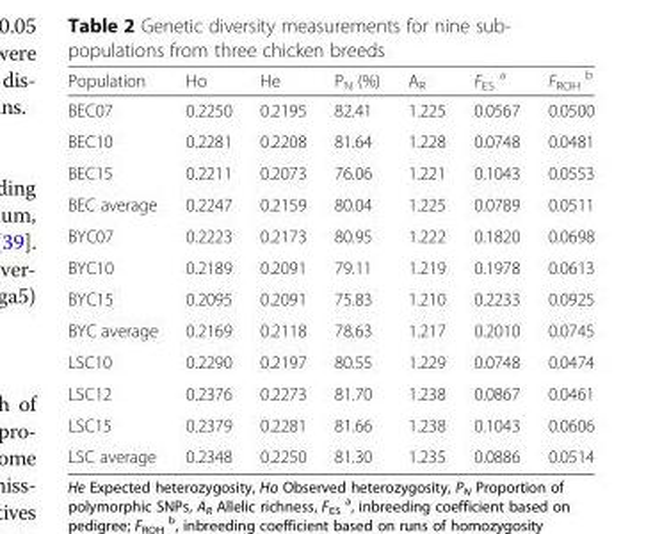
<table><thead><tr><td>Population</td><td>Ho</td><td>He</td><td>P<sub>N</sub> (%)</td><td>A<sub>R</sub></td><td>F<sub>ES</sub> <sup>a</sup></td><td>F<sub>ROH</sub> <sup>b</sup></td></tr></thead><tbody><tr><td>BEC07</td><td>0.2250</td><td>0.2195</td><td>82.41</td><td>1.225</td><td>0.0567</td><td>0.0500</td></tr><tr><td>BEC10</td><td>0.2281</td><td>0.2208</td><td>81.64</td><td>1.228</td><td>0.0748</td><td>0.0481</td></tr><tr><td>BEC15</td><td>0.2211</td><td>0.2073</td><td>76.06</td><td>1.221</td><td>0.1043</td><td>0.0553</td></tr><tr><td>BEC average</td><td>0.2247</td><td>0.2159</td><td>80.04</td><td>1.225</td><td>0.0789</td><td>0.0511</td></tr><tr><td>BYC07</td><td>0.2223</td><td>0.2173</td><td>80.95</td><td>1.222</td><td>0.1820</td><td>0.0698</td></tr><tr><td>BYC10</td><td>0.2189</td><td>0.2091</td><td>79.11</td><td>1.219</td><td>0.1978</td><td>0.0613</td></tr><tr><td>BYC15</td><td>0.2095</td><td>0.2091</td><td>75.83</td><td>1.210</td><td>0.2233</td><td>0.0925</td></tr><tr><td>BYC average</td><td>0.2169</td><td>0.2118</td><td>78.63</td><td>1.217</td><td>0.2010</td><td>0.0745</td></tr><tr><td>LSC10</td><td>0.2290</td><td>0.2197</td><td>80.55</td><td>1.229</td><td>0.0748</td><td>0.0474</td></tr><tr><td>LSC12</td><td>0.2376</td><td>0.2273</td><td>81.70</td><td>1.238</td><td>0.0867</td><td>0.0461</td></tr><tr><td>LSC15</td><td>0.2379</td><td>0.2281</td><td>81.66</td><td>1.238</td><td>0.1043</td><td>0.0606</td></tr><tr><td>LSC average</td><td>0.2348</td><td>0.2250</td><td>81.30</td><td>1.235</td><td>0.0886</td><td>0.0514</td></tr></tbody></table>